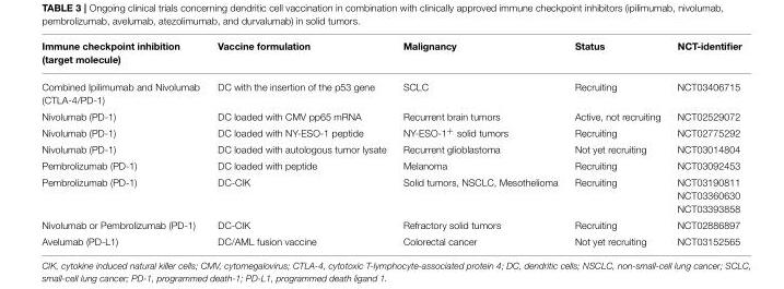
<table><thead><tr><td>Immune checkpoint inhibition (target molecule)</td><td>Vaccine formulation</td><td>Malignancy</td><td>Status</td><td>NCT-identifier</td></tr></thead><tbody><tr><td>Combined Ipilimumab and Nivolumab (CTLA-4/PD-1)</td><td>DC with the insertion of the p53 gene</td><td>SCLC</td><td>Recruiting</td><td>NCT03406715</td></tr><tr><td>Nivolumab (PD-1)</td><td>DC loaded with CMV pp65 mRNA</td><td>Recurrent brain tumors</td><td>Active, not recruiting</td><td>NCT02529072</td></tr><tr><td>Nivolumab (PD-1)</td><td>DC loaded with NY-ESO-1 peptide</td><td>NY-ESO-1<sup>+</sup> solid tumors</td><td>Recruiting</td><td>NCT02775292</td></tr><tr><td>Nivolumab (PD-1)</td><td>DC loaded with autologous tumor lysate</td><td>Recurrent glioblastoma</td><td>Not yet recruiting</td><td>NCT03014804</td></tr><tr><td>Pembrolizumab (PD-1)</td><td>DC loaded with peptide</td><td>Melanoma</td><td>Recruiting</td><td>NCT03092453</td></tr><tr><td>Pembrolizumab (PD-1)</td><td>DC-CIK</td><td>Solid tumors, NSCLC, Mesothelioma</td><td>Recruiting</td><td>NCT03190811 NCT03360630 NCT03393858</td></tr><tr><td>Nivolumab or Pembrolizumab (PD-1)</td><td>DC-CIK</td><td>Refractory solid tumors</td><td>Recruiting</td><td>NCT02886897</td></tr><tr><td>Avelumab (PD-L1)</td><td>DC/AML fusion vaccine</td><td>Colorectal cancer</td><td>Not yet recruiting</td><td>NCT03152565</td></tr></tbody></table>